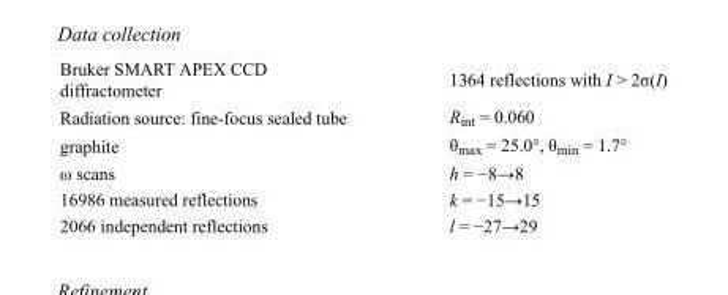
<table><tbody><tr><td>Bruker SMART APEX CCD diffractometer</td><td>1364 reflections with I &gt; 2σ(I)</td></tr><tr><td>Radiation source: fine-focus sealed tube</td><td>R<sub>int</sub> = 0.060</td></tr><tr><td>graphite</td><td>θ<sub>max</sub> = 25.0°, θ<sub>min</sub> = 1.7°</td></tr><tr><td>ω scans</td><td>h = −8→8</td></tr><tr><td>16986 measured reflections</td><td>k = −15→15</td></tr><tr><td>2066 independent reflections</td><td>l = −27→29</td></tr></tbody></table>